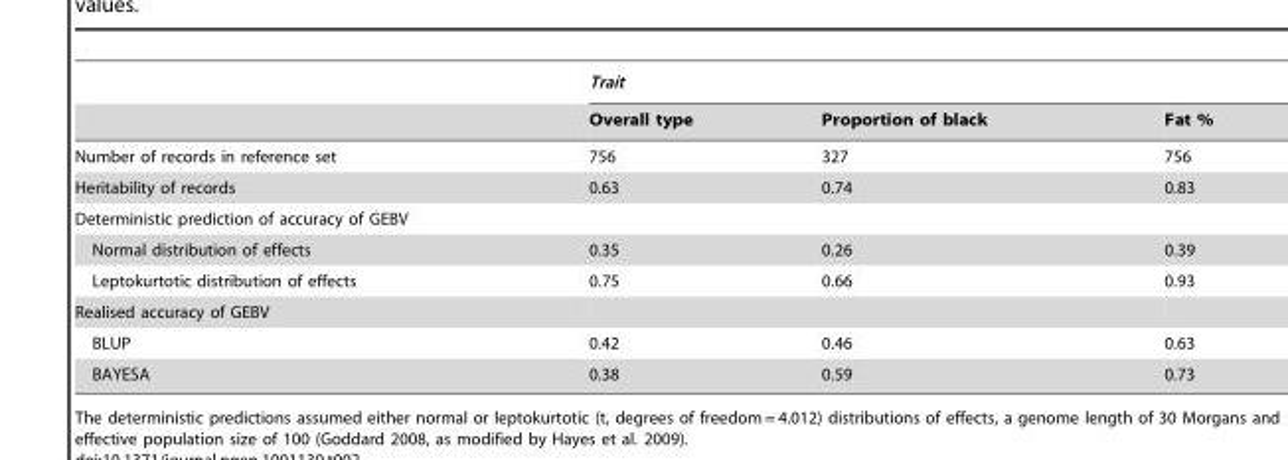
<table><thead><tr><td rowspan="2"></td><td colspan="3">Trait</td></tr><tr><td>Overall type</td><td>Proportion of black</td><td>Fat %</td></tr></thead><tbody><tr><td>Number of records in reference set</td><td>756</td><td>327</td><td>756</td></tr><tr><td>Heritability of records</td><td>0.63</td><td>0.74</td><td>0.83</td></tr><tr><td colspan="4">Deterministic prediction of accuracy of GEBV</td></tr><tr><td>Normal distribution of effects</td><td>0.35</td><td>0.26</td><td>0.39</td></tr><tr><td>Leptokurtotic distribution of effects</td><td>0.75</td><td>0.66</td><td>0.93</td></tr><tr><td colspan="4">Realised accuracy of GEBV</td></tr><tr><td>BLUP</td><td>0.42</td><td>0.46</td><td>0.63</td></tr><tr><td>BAYESA</td><td>0.38</td><td>0.59</td><td>0.73</td></tr></tbody></table>